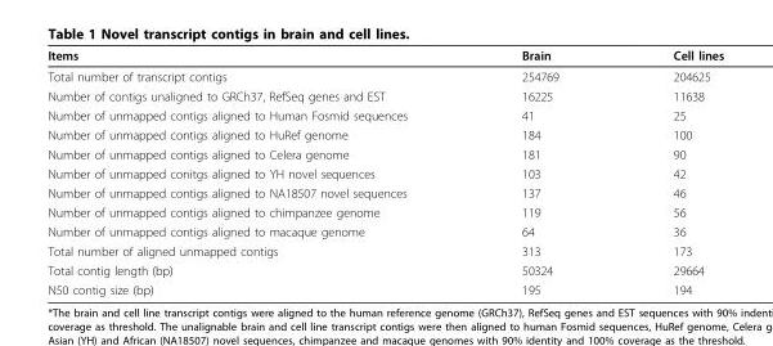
<table><thead><tr><td>Items</td><td>Brain</td><td>Cell lines</td></tr></thead><tbody><tr><td>Total number of transcript contigs</td><td>254769</td><td>204625</td></tr><tr><td>Number of contigs unaligned to GRCh37, RefSeq genes and EST</td><td>16225</td><td>11638</td></tr><tr><td>Number of unmapped contigs aligned to Human Fosmid sequences</td><td>41</td><td>25</td></tr><tr><td>Number of unmapped contigs aligned to HuRef genome</td><td>184</td><td>100</td></tr><tr><td>Number of unmapped contigs aligned to Celera genome</td><td>181</td><td>90</td></tr><tr><td>Number of unmapped conitgs aligned to YH novel sequences</td><td>103</td><td>42</td></tr><tr><td>Number of unmapped contigs aligned to NA18507 novel sequences</td><td>137</td><td>46</td></tr><tr><td>Number of unmapped contigs aligned to chimpanzee genome</td><td>119</td><td>56</td></tr><tr><td>Number of unmapped contigs aligned to macaque genome</td><td>64</td><td>36</td></tr><tr><td>Total number of aligned unmapped contigs</td><td>313</td><td>173</td></tr><tr><td>Total contig length (bp)</td><td>50324</td><td>29664</td></tr><tr><td>N50 contig size (bp)</td><td>195</td><td>194</td></tr></tbody></table>